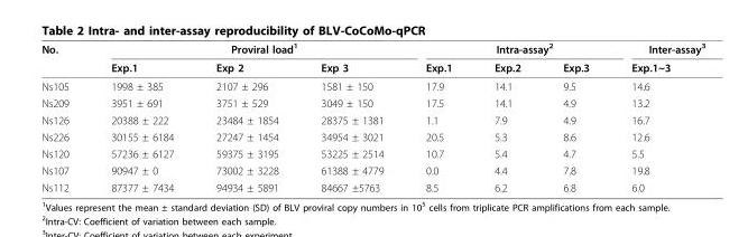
<table><tbody><tr><td rowspan="2">No.</td><td colspan="3">Proviral load<sup>1</sup></td><td colspan="3">Intra-assay<sup>2</sup></td><td>Inter-assay<sup>3</sup></td></tr><tr><td>Exp.1</td><td>Exp 2</td><td>Exp 3</td><td>Exp.1</td><td>Exp.2</td><td>Exp.3</td><td>Exp.1~3</td></tr><tr><td>Ns105</td><td>1998 ± 385</td><td>2107 ± 296</td><td>1581 ± 150</td><td>17.9</td><td>14.1</td><td>9.5</td><td>14.6</td></tr><tr><td>Ns209</td><td>3951 ± 691</td><td>3751 ± 529</td><td>3049 ± 150</td><td>17.5</td><td>14.1</td><td>4.9</td><td>13.2</td></tr><tr><td>Ns126</td><td>20388 ± 222</td><td>23484 ± 1854</td><td>28375 ± 1381</td><td>1.1</td><td>7.9</td><td>4.9</td><td>16.7</td></tr><tr><td>Ns226</td><td>30155 ± 6184</td><td>27247 ± 1454</td><td>34954 ± 3021</td><td>20.5</td><td>5.3</td><td>8.6</td><td>12.6</td></tr><tr><td>Ns120</td><td>57236 ± 6127</td><td>59375 ± 3195</td><td>53225 ± 2514</td><td>10.7</td><td>5.4</td><td>4.7</td><td>5.5</td></tr><tr><td>Ns107</td><td>90947 ± 0</td><td>73002 ± 3228</td><td>61388 ± 4779</td><td>0.0</td><td>4.4</td><td>7.8</td><td>19.8</td></tr><tr><td>Ns112</td><td>87377 ± 7434</td><td>94934 ± 5891</td><td>84667 ±5763</td><td>8.5</td><td>6.2</td><td>6.8</td><td>6.0</td></tr></tbody></table>